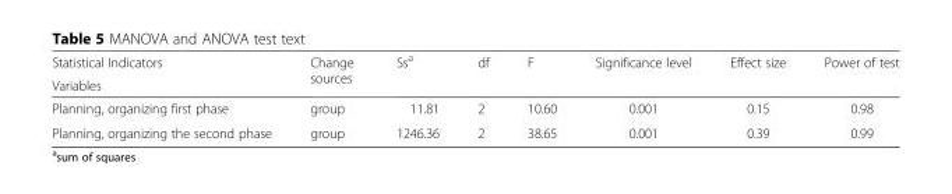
<table><thead><tr><td rowspan="2">Statistical Indicators Variables</td><td rowspan="2">Change sources</td><td rowspan="2">Ss<sup>a</sup></td><td rowspan="2">df</td><td rowspan="2">F</td><td rowspan="2">Significance level</td><td rowspan="2">Effect size</td><td rowspan="2">Power of test</td></tr><tr></tr></thead><tbody><tr><td>Planning, organizing first phase</td><td>group</td><td>11.81</td><td>2</td><td>10.60</td><td>0.001</td><td>0.15</td><td>0.98</td></tr><tr><td>Planning, organizing the second phase</td><td>group</td><td>1246.36</td><td>2</td><td>38.65</td><td>0.001</td><td>0.39</td><td>0.99</td></tr></tbody></table>